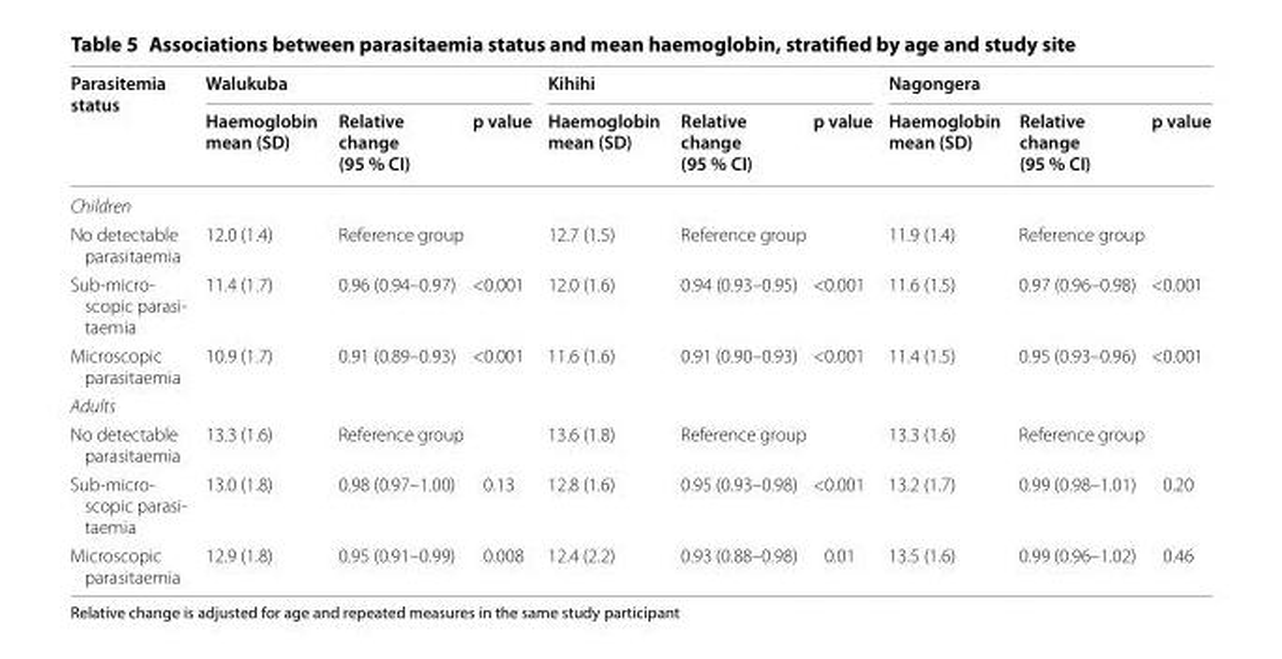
<table><thead><tr><td rowspan="2">Parasitemia status</td><td colspan="3">Walukuba</td><td colspan="3">Kihihi</td><td colspan="3">Nagongera</td></tr><tr><td>Haemoglobin mean (SD)</td><td>Relative change (95 % CI)</td><td>p value</td><td>Haemoglobin mean (SD)</td><td>Relative change (95 % CI)</td><td>p value</td><td>Haemoglobin mean (SD)</td><td>Relative change (95 % CI)</td><td>p value</td></tr></thead><tbody><tr><td colspan="10">Children</td></tr><tr><td>No detectable parasitaemia</td><td>12.0 (1.4)</td><td colspan="2">Reference group</td><td>12.7 (1.5)</td><td colspan="2">Reference group</td><td>11.9 (1.4)</td><td colspan="2">Reference group</td></tr><tr><td>Sub-micro- scopic parasi- taemia</td><td>11.4 (1.7)</td><td>0.96 (0.94–0.97)</td><td>&lt;0.001</td><td>12.0 (1.6)</td><td>0.94 (0.93–0.95)</td><td>&lt;0.001</td><td>11.6 (1.5)</td><td>0.97 (0.96–0.98)</td><td>&lt;0.001</td></tr><tr><td>Microscopic parasitaemia</td><td>10.9 (1.7)</td><td>0.91 (0.89–0.93)</td><td>&lt;0.001</td><td>11.6 (1.6)</td><td>0.91 (0.90–0.93)</td><td>&lt;0.001</td><td>11.4 (1.5)</td><td>0.95 (0.93–0.96)</td><td>&lt;0.001</td></tr><tr><td colspan="10">Adults</td></tr><tr><td>No detectable parasitaemia</td><td>13.3 (1.6)</td><td colspan="2">Reference group</td><td>13.6 (1.8)</td><td colspan="2">Reference group</td><td>13.3 (1.6)</td><td colspan="2">Reference group</td></tr><tr><td>Sub-micro- scopic parasi- taemia</td><td>13.0 (1.8)</td><td>0.98 (0.97–1.00)</td><td>0.13</td><td>12.8 (1.6)</td><td>0.95 (0.93–0.98)</td><td>&lt;0.001</td><td>13.2 (1.7)</td><td>0.99 (0.98–1.01)</td><td>0.20</td></tr><tr><td>Microscopic parasitaemia</td><td>12.9 (1.8)</td><td>0.95 (0.91–0.99)</td><td>0.008</td><td>12.4 (2.2)</td><td>0.93 (0.88–0.98)</td><td>0.01</td><td>13.5 (1.6)</td><td>0.99 (0.96–1.02)</td><td>0.46</td></tr></tbody></table>